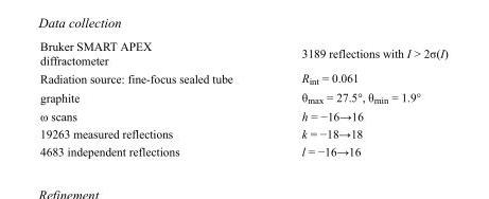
<table><tbody><tr><td>Bruker SMART APEX diffractometer</td><td>3189 reflections with I &gt; 2σ(I)</td></tr><tr><td>Radiation source: fine-focus sealed tube</td><td>R<sub>int</sub> = 0.061</td></tr><tr><td>graphite</td><td>θ<sub>max</sub> = 27.5°, θ<sub>min</sub> = 1.9°</td></tr><tr><td>ω scans</td><td>h = −16→16</td></tr><tr><td>19263 measured reflections</td><td>k = −18→18</td></tr><tr><td>4683 independent reflections</td><td>l = −16→16</td></tr></tbody></table>